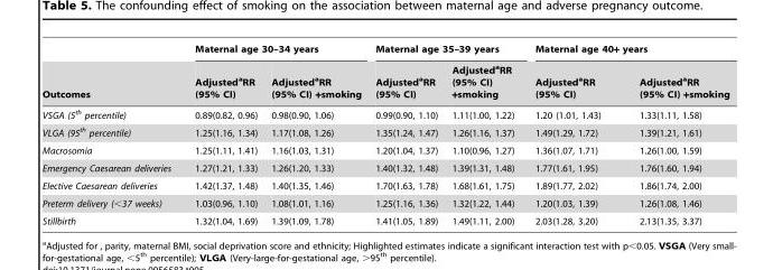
<table><thead><tr><td rowspan="2">Outcomes</td><td colspan="2">Maternal age 30–34 years</td><td colspan="2">Maternal age 35–39 years</td><td colspan="2">Maternal age 40+ years</td></tr><tr><td>Adjusted<sup>a</sup>RR (95% CI)</td><td>Adjusted<sup>a</sup>RR (95% CI) +smoking</td><td>Adjusted<sup>a</sup>RR (95% CI)</td><td>Adjusted<sup>a</sup>RR (95% CI) +smoking</td><td>Adjusted<sup>a</sup>RR (95% CI)</td><td>Adjusted<sup>a</sup>RR (95% CI) +smoking</td></tr></thead><tbody><tr><td>VSGA (5<sup>th</sup> percentile)</td><td>0.89(0.82, 0.96)</td><td>0.98(0.90, 1.06)</td><td>0.99(0.90, 1.10)</td><td>1.11(1.00, 1.22)</td><td>1.20 (1.01, 1.43)</td><td>1.33(1.11, 1.58)</td></tr><tr><td>VLGA (95<sup>th</sup> percentile)</td><td>1.25(1.16, 1.34)</td><td>1.17(1.08, 1.26)</td><td>1.35(1.24, 1.47)</td><td>1.26(1.16, 1.37)</td><td>1.49(1.29, 1.72)</td><td>1.39(1.21, 1.61)</td></tr><tr><td>Macrosomia</td><td>1.25(1.11, 1.41)</td><td>1.16(1.03, 1.31)</td><td>1.20(1.04, 1.37)</td><td>1.10(0.96, 1.27)</td><td>1.36(1.07, 1.71)</td><td>1.26(1.00, 1.59)</td></tr><tr><td>Emergency Caesarean deliveries</td><td>1.27(1.21, 1.33)</td><td>1.26(1.20, 1.33)</td><td>1.40(1.32, 1.48)</td><td>1.39(1.31, 1.48)</td><td>1.77(1.61, 1.95)</td><td>1.76(1.60, 1.94)</td></tr><tr><td>Elective Caesarean deliveries</td><td>1.42(1.37, 1.48)</td><td>1.40(1.35, 1.46)</td><td>1.70(1.63, 1.78)</td><td>1.68(1.61, 1.75)</td><td>1.89(1.77, 2.02)</td><td>1.86(1.74, 2.00)</td></tr><tr><td>Preterm delivery (&lt;37 weeks)</td><td>1.03(0.96, 1.10)</td><td>1.08(1.01, 1.16)</td><td>1.25(1.16, 1.36)</td><td>1.32(1.22, 1.44)</td><td>1.20(1.03, 1.39)</td><td>1.26(1.08, 1.46)</td></tr><tr><td>Stillbirth</td><td>1.32(1.04, 1.69)</td><td>1.39(1.09, 1.78)</td><td>1.41(1.05, 1.89)</td><td>1.49(1.11, 2.00)</td><td>2.03(1.28, 3.20)</td><td>2.13(1.35, 3.37)</td></tr></tbody></table>